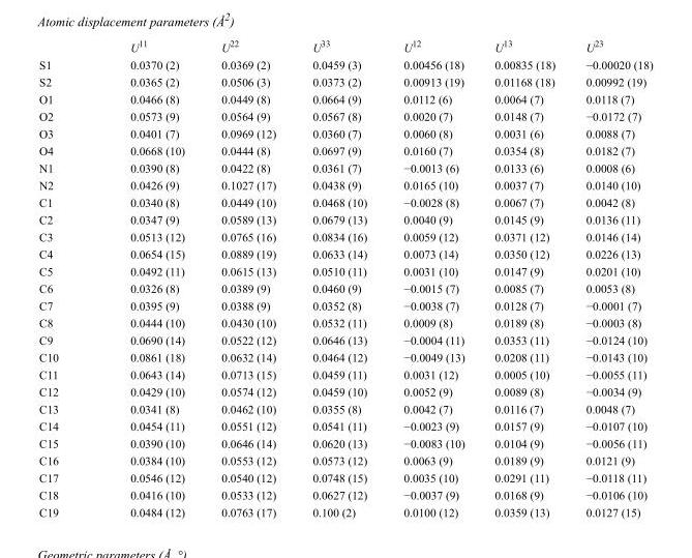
<table><thead><tr><td></td><td>U<sup>11</sup></td><td>U<sup>22</sup></td><td>U<sup>33</sup></td><td>U<sup>12</sup></td><td>U<sup>13</sup></td><td>U<sup>23</sup></td></tr></thead><tbody><tr><td>S1</td><td>0.0370 (2)</td><td>0.0369 (2)</td><td>0.0459 (3)</td><td>0.00456 (18)</td><td>0.00835 (18)</td><td>−0.00020 (18)</td></tr><tr><td>S2</td><td>0.0365 (2)</td><td>0.0506 (3)</td><td>0.0373 (2)</td><td>0.00913 (19)</td><td>0.01168 (18)</td><td>0.00992 (19)</td></tr><tr><td>O1</td><td>0.0466 (8)</td><td>0.0449 (8)</td><td>0.0664 (9)</td><td>0.0112 (6)</td><td>0.0064 (7)</td><td>0.0118 (7)</td></tr><tr><td>O2</td><td>0.0573 (9)</td><td>0.0564 (9)</td><td>0.0567 (8)</td><td>0.0020 (7)</td><td>0.0148 (7)</td><td>−0.0172 (7)</td></tr><tr><td>O3</td><td>0.0401 (7)</td><td>0.0969 (12)</td><td>0.0360 (7)</td><td>0.0060 (8)</td><td>0.0031 (6)</td><td>0.0088 (7)</td></tr><tr><td>O4</td><td>0.0668 (10)</td><td>0.0444 (8)</td><td>0.0697 (9)</td><td>0.0160 (7)</td><td>0.0354 (8)</td><td>0.0182 (7)</td></tr><tr><td>N1</td><td>0.0390 (8)</td><td>0.0422 (8)</td><td>0.0361 (7)</td><td>−0.0013 (6)</td><td>0.0133 (6)</td><td>0.0008 (6)</td></tr><tr><td>N2</td><td>0.0426 (9)</td><td>0.1027 (17)</td><td>0.0438 (9)</td><td>0.0165 (10)</td><td>0.0037 (7)</td><td>0.0140 (10)</td></tr><tr><td>C1</td><td>0.0340 (8)</td><td>0.0449 (10)</td><td>0.0468 (10)</td><td>−0.0028 (8)</td><td>0.0067 (7)</td><td>0.0042 (8)</td></tr><tr><td>C2</td><td>0.0347 (9)</td><td>0.0589 (13)</td><td>0.0679 (13)</td><td>0.0040 (9)</td><td>0.0145 (9)</td><td>0.0136 (11)</td></tr><tr><td>C3</td><td>0.0513 (12)</td><td>0.0765 (16)</td><td>0.0834 (16)</td><td>0.0059 (12)</td><td>0.0371 (12)</td><td>0.0146 (14)</td></tr><tr><td>C4</td><td>0.0654 (15)</td><td>0.0889 (19)</td><td>0.0633 (14)</td><td>0.0073 (14)</td><td>0.0350 (12)</td><td>0.0226 (13)</td></tr><tr><td>C5</td><td>0.0492 (11)</td><td>0.0615 (13)</td><td>0.0510 (11)</td><td>0.0031 (10)</td><td>0.0147 (9)</td><td>0.0201 (10)</td></tr><tr><td>C6</td><td>0.0326 (8)</td><td>0.0389 (9)</td><td>0.0460 (9)</td><td>−0.0015 (7)</td><td>0.0085 (7)</td><td>0.0053 (8)</td></tr><tr><td>C7</td><td>0.0395 (9)</td><td>0.0388 (9)</td><td>0.0352 (8)</td><td>−0.0038 (7)</td><td>0.0128 (7)</td><td>−0.0001 (7)</td></tr><tr><td>C8</td><td>0.0444 (10)</td><td>0.0430 (10)</td><td>0.0532 (11)</td><td>0.0009 (8)</td><td>0.0189 (8)</td><td>−0.0003 (8)</td></tr><tr><td>C9</td><td>0.0690 (14)</td><td>0.0522 (12)</td><td>0.0646 (13)</td><td>−0.0004 (11)</td><td>0.0353 (11)</td><td>−0.0124 (10)</td></tr><tr><td>C10</td><td>0.0861 (18)</td><td>0.0632 (14)</td><td>0.0464 (12)</td><td>−0.0049 (13)</td><td>0.0208 (11)</td><td>−0.0143 (10)</td></tr><tr><td>C11</td><td>0.0643 (14)</td><td>0.0713 (15)</td><td>0.0459 (11)</td><td>0.0031 (12)</td><td>0.0005 (10)</td><td>−0.0055 (11)</td></tr><tr><td>C12</td><td>0.0429 (10)</td><td>0.0574 (12)</td><td>0.0459 (10)</td><td>0.0052 (9)</td><td>0.0089 (8)</td><td>−0.0034 (9)</td></tr><tr><td>C13</td><td>0.0341 (8)</td><td>0.0462 (10)</td><td>0.0355 (8)</td><td>0.0042 (7)</td><td>0.0116 (7)</td><td>0.0048 (7)</td></tr><tr><td>C14</td><td>0.0454 (11)</td><td>0.0551 (12)</td><td>0.0541 (11)</td><td>−0.0023 (9)</td><td>0.0157 (9)</td><td>−0.0107 (10)</td></tr><tr><td>C15</td><td>0.0390 (10)</td><td>0.0646 (14)</td><td>0.0620 (13)</td><td>−0.0083 (10)</td><td>0.0104 (9)</td><td>−0.0056 (11)</td></tr><tr><td>C16</td><td>0.0384 (10)</td><td>0.0553 (12)</td><td>0.0573 (12)</td><td>0.0063 (9)</td><td>0.0189 (9)</td><td>0.0121 (9)</td></tr><tr><td>C17</td><td>0.0546 (12)</td><td>0.0540 (12)</td><td>0.0748 (15)</td><td>0.0035 (10)</td><td>0.0291 (11)</td><td>−0.0118 (11)</td></tr><tr><td>C18</td><td>0.0416 (10)</td><td>0.0533 (12)</td><td>0.0627 (12)</td><td>−0.0037 (9)</td><td>0.0168 (9)</td><td>−0.0106 (10)</td></tr><tr><td>C19</td><td>0.0484 (12)</td><td>0.0763 (17)</td><td>0.100 (2)</td><td>0.0100 (12)</td><td>0.0359 (13)</td><td>0.0127 (15)</td></tr></tbody></table>